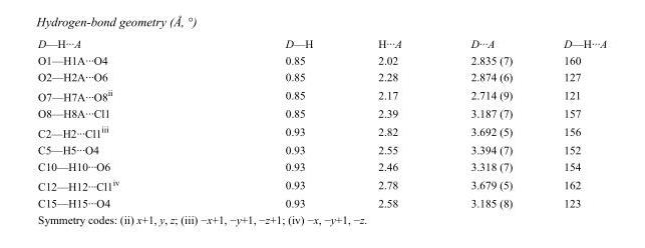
<table><tbody><tr><td>D—H···A</td><td>D—H</td><td>H···A</td><td>D···A</td><td>D—H···A</td></tr><tr><td>O1—H1A···O4</td><td>0.85</td><td>2.02</td><td>2.835 (7)</td><td>160</td></tr><tr><td>O2—H2A···O6</td><td>0.85</td><td>2.28</td><td>2.874 (6)</td><td>127</td></tr><tr><td>O7—H7A···O8<sup>ii</sup></td><td>0.85</td><td>2.17</td><td>2.714 (9)</td><td>121</td></tr><tr><td>O8—H8A···Cl1</td><td>0.85</td><td>2.39</td><td>3.187 (7)</td><td>157</td></tr><tr><td>C2—H2···Cl1<sup>iii</sup></td><td>0.93</td><td>2.82</td><td>3.692 (5)</td><td>156</td></tr><tr><td>C5—H5···O4</td><td>0.93</td><td>2.55</td><td>3.394 (7)</td><td>152</td></tr><tr><td>C10—H10···O6</td><td>0.93</td><td>2.46</td><td>3.318 (7)</td><td>154</td></tr><tr><td>C12—H12···Cl1<sup>iv</sup></td><td>0.93</td><td>2.78</td><td>3.679 (5)</td><td>162</td></tr><tr><td>C15—H15···O4</td><td>0.93</td><td>2.58</td><td>3.185 (8)</td><td>123</td></tr></tbody></table>